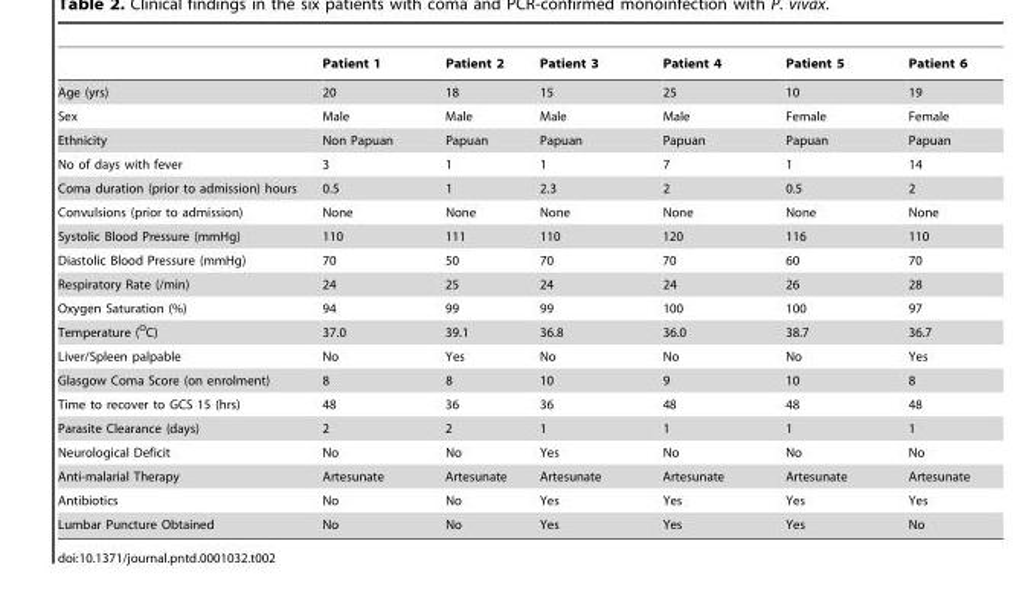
<table><thead><tr><td></td><td>Patient 1</td><td>Patient 2</td><td>Patient 3</td><td>Patient 4</td><td>Patient 5</td><td>Patient 6</td></tr></thead><tbody><tr><td>Age (yrs)</td><td>20</td><td>18</td><td>15</td><td>25</td><td>10</td><td>19</td></tr><tr><td>Sex</td><td>Male</td><td>Male</td><td>Male</td><td>Male</td><td>Female</td><td>Female</td></tr><tr><td>Ethnicity</td><td>Non Papuan</td><td>Papuan</td><td>Papuan</td><td>Papuan</td><td>Papuan</td><td>Papuan</td></tr><tr><td>No of days with fever</td><td>3</td><td>1</td><td>1</td><td>7</td><td>1</td><td>14</td></tr><tr><td>Coma duration (prior to admission) hours</td><td>0.5</td><td>1</td><td>2.3</td><td>2</td><td>0.5</td><td>2</td></tr><tr><td>Convulsions (prior to admission)</td><td>None</td><td>None</td><td>None</td><td>None</td><td>None</td><td>None</td></tr><tr><td>Systolic Blood Pressure (mmHg)</td><td>110</td><td>111</td><td>110</td><td>120</td><td>116</td><td>110</td></tr><tr><td>Diastolic Blood Pressure (mmHg)</td><td>70</td><td>50</td><td>70</td><td>70</td><td>60</td><td>70</td></tr><tr><td>Respiratory Rate (/min)</td><td>24</td><td>25</td><td>24</td><td>24</td><td>26</td><td>28</td></tr><tr><td>Oxygen Saturation (%)</td><td>94</td><td>99</td><td>99</td><td>100</td><td>100</td><td>97</td></tr><tr><td>Temperature (<sup>O</sup>C)</td><td>37.0</td><td>39.1</td><td>36.8</td><td>36.0</td><td>38.7</td><td>36.7</td></tr><tr><td>Liver/Spleen palpable</td><td>No</td><td>Yes</td><td>No</td><td>No</td><td>No</td><td>Yes</td></tr><tr><td>Glasgow Coma Score (on enrolment)</td><td>8</td><td>8</td><td>10</td><td>9</td><td>10</td><td>8</td></tr><tr><td>Time to recover to GCS 15 (hrs)</td><td>48</td><td>36</td><td>36</td><td>48</td><td>48</td><td>48</td></tr><tr><td>Parasite Clearance (days)</td><td>2</td><td>2</td><td>1</td><td>1</td><td>1</td><td>1</td></tr><tr><td>Neurological Deficit</td><td>No</td><td>No</td><td>Yes</td><td>No</td><td>No</td><td>No</td></tr><tr><td>Anti-malarial Therapy</td><td>Artesunate</td><td>Artesunate</td><td>Artesunate</td><td>Artesunate</td><td>Artesunate</td><td>Artesunate</td></tr><tr><td>Antibiotics</td><td>No</td><td>No</td><td>Yes</td><td>Yes</td><td>Yes</td><td>Yes</td></tr><tr><td>Lumbar Puncture Obtained</td><td>No</td><td>No</td><td>Yes</td><td>Yes</td><td>Yes</td><td>No</td></tr></tbody></table>